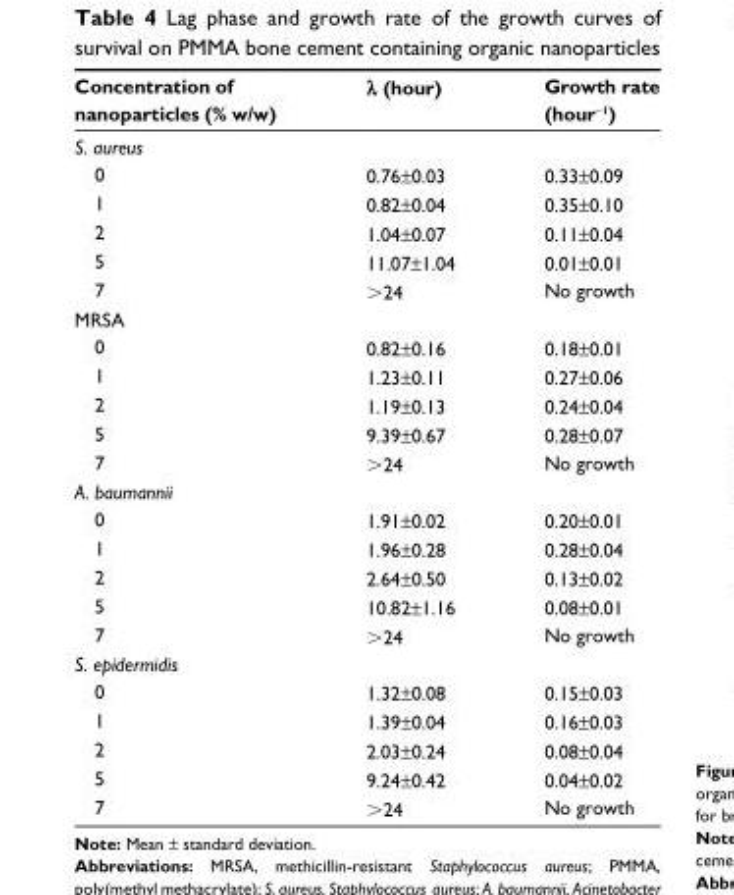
<table><thead><tr><td>Concentration of nanoparticles (% w/w)</td><td>λ (hour)</td><td>Growth rate (hour<sup>−1</sup>)</td></tr></thead><tbody><tr><td colspan="3">S. aureus</td></tr><tr><td>0</td><td>0.76±0.03</td><td>0.33±0.09</td></tr><tr><td>1</td><td>0.82±0.04</td><td>0.35±0.10</td></tr><tr><td>2</td><td>1.04±0.07</td><td>0.11±0.04</td></tr><tr><td>5</td><td>11.07±1.04</td><td>0.01±0.01</td></tr><tr><td>7</td><td>&gt;24</td><td>No growth</td></tr><tr><td colspan="3">Mrsa</td></tr><tr><td>0</td><td>0.82±0.16</td><td>0.18±0.01</td></tr><tr><td>1</td><td>1.23±0.11</td><td>0.27±0.06</td></tr><tr><td>2</td><td>1.19±0.13</td><td>0.24±0.04</td></tr><tr><td>5</td><td>9.39±0.67</td><td>0.28±0.07</td></tr><tr><td>7</td><td>&gt;24</td><td>No growth</td></tr><tr><td colspan="3">A. baumannii</td></tr><tr><td>0</td><td>1.91±0.02</td><td>0.20±0.01</td></tr><tr><td>1</td><td>1.96±0.28</td><td>0.28±0.04</td></tr><tr><td>2</td><td>2.64±0.50</td><td>0.13±0.02</td></tr><tr><td>5</td><td>10.82±1.16</td><td>0.08±0.01</td></tr><tr><td>7</td><td>&gt;24</td><td>No growth</td></tr><tr><td colspan="3">S. epidermidis</td></tr><tr><td>0</td><td>1.32±0.08</td><td>0.15±0.03</td></tr><tr><td>1</td><td>1.39±0.04</td><td>0.16±0.03</td></tr><tr><td>2</td><td>2.03±0.24</td><td>0.08±0.04</td></tr><tr><td>5</td><td>9.24±0.42</td><td>0.04±0.02</td></tr><tr><td>7</td><td>&gt;24</td><td>No growth</td></tr></tbody></table>